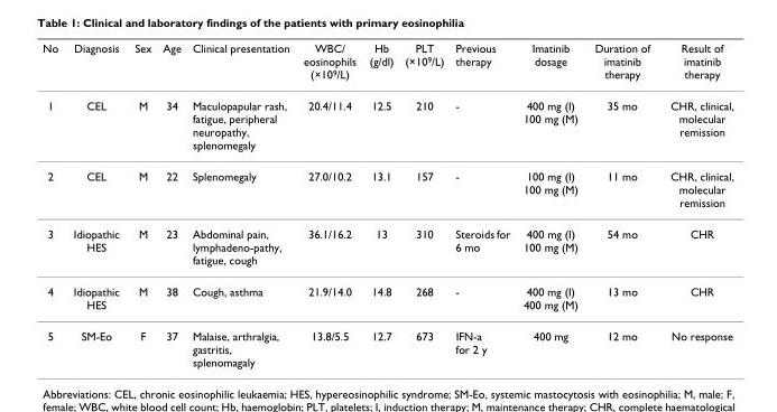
<table><thead><tr><td>No</td><td>Diagnosis</td><td>Sex</td><td>Age</td><td>Clinical presentation</td><td>WBC/ eosinophils (×10<sup>9</sup>/L)</td><td>Hb (g/dl)</td><td>PLT (×10<sup>9</sup>/L)</td><td>Previous therapy</td><td>Imatinib dosage</td><td>Duration of imatinib therapy</td><td>Result of imatinib therapy</td></tr></thead><tbody><tr><td>1</td><td>CEL</td><td>M</td><td>34</td><td>Maculopapular rash, fatigue, peripheral neuropathy, splenomegaly</td><td>20.4/11.4</td><td>12.5</td><td>210</td><td>-</td><td>400 mg (I) 100 mg (M)</td><td>35 mo</td><td>CHR, clinical, molecular remission</td></tr><tr><td>2</td><td>CEL</td><td>M</td><td>22</td><td>Splenomegaly</td><td>27.0/10.2</td><td>13.1</td><td>157</td><td>-</td><td>100 mg (I) 100 mg (M)</td><td>11 mo</td><td>CHR, clinical, molecular remission</td></tr><tr><td>3</td><td>Idiopathic HES</td><td>M</td><td>23</td><td>Abdominal pain, lymphadeno-pathy, fatigue, cough</td><td>36.1/16.2</td><td>13</td><td>310</td><td>Steroids for 6 mo</td><td>400 mg (I) 100 mg (M)</td><td>54 mo</td><td>CHR</td></tr><tr><td>4</td><td>Idiopathic HES</td><td>M</td><td>38</td><td>Cough, asthma</td><td>21.9/14.0</td><td>14.8</td><td>268</td><td>-</td><td>400 mg (I) 400 mg (M)</td><td>13 mo</td><td>CHR</td></tr><tr><td>5</td><td>SM-Eo</td><td>F</td><td>37</td><td>Malaise, arthralgia, gastritis, splenomagaly</td><td>13.8/5.5</td><td>12.7</td><td>673</td><td>IFN-a for 2 y</td><td>400 mg</td><td>12 mo</td><td>No response</td></tr></tbody></table>